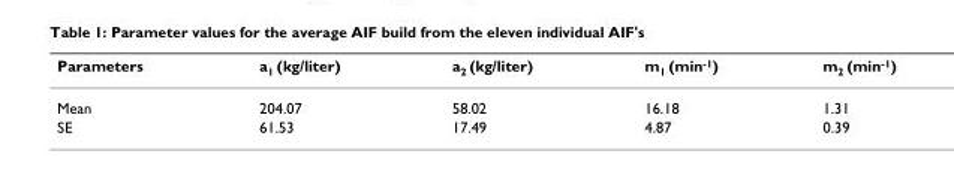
<table><thead><tr><td>Parameters</td><td>a<sub>1</sub> (kg/liter)</td><td>a<sub>2</sub> (kg/liter)</td><td>m<sub>1</sub> (min<sup>-1</sup>)</td><td>m<sub>2</sub> (min<sup>-1</sup>)</td></tr></thead><tbody><tr><td>Mean</td><td>204.07</td><td>58.02</td><td>16.18</td><td>1.31</td></tr><tr><td>SE</td><td>61.53</td><td>17.49</td><td>4.87</td><td>0.39</td></tr></tbody></table>